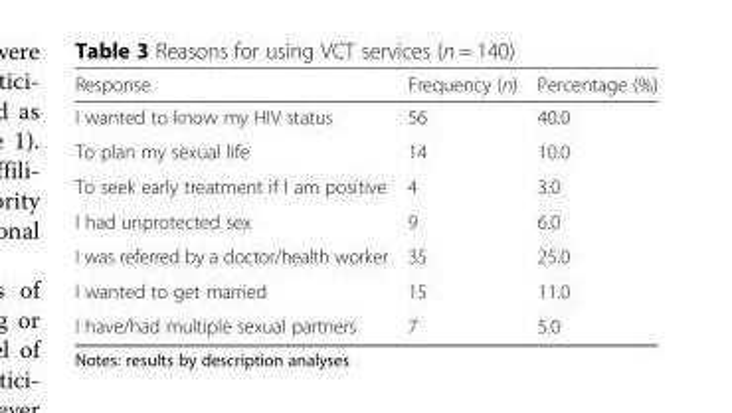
<table><thead><tr><td>Response</td><td>Frequency (n)</td><td>Percentage (%)</td></tr></thead><tbody><tr><td>I wanted to know my HIV status</td><td>56</td><td>40.0</td></tr><tr><td>To plan my sexual life</td><td>14</td><td>10.0</td></tr><tr><td>To seek early treatment if I am positive</td><td>4</td><td>3.0</td></tr><tr><td>I had unprotected sex</td><td>9</td><td>6.0</td></tr><tr><td>I was referred by a doctor/health worker</td><td>35</td><td>25.0</td></tr><tr><td>I wanted to get married</td><td>15</td><td>11.0</td></tr><tr><td>I have/had multiple sexual partners</td><td>7</td><td>5.0</td></tr></tbody></table>